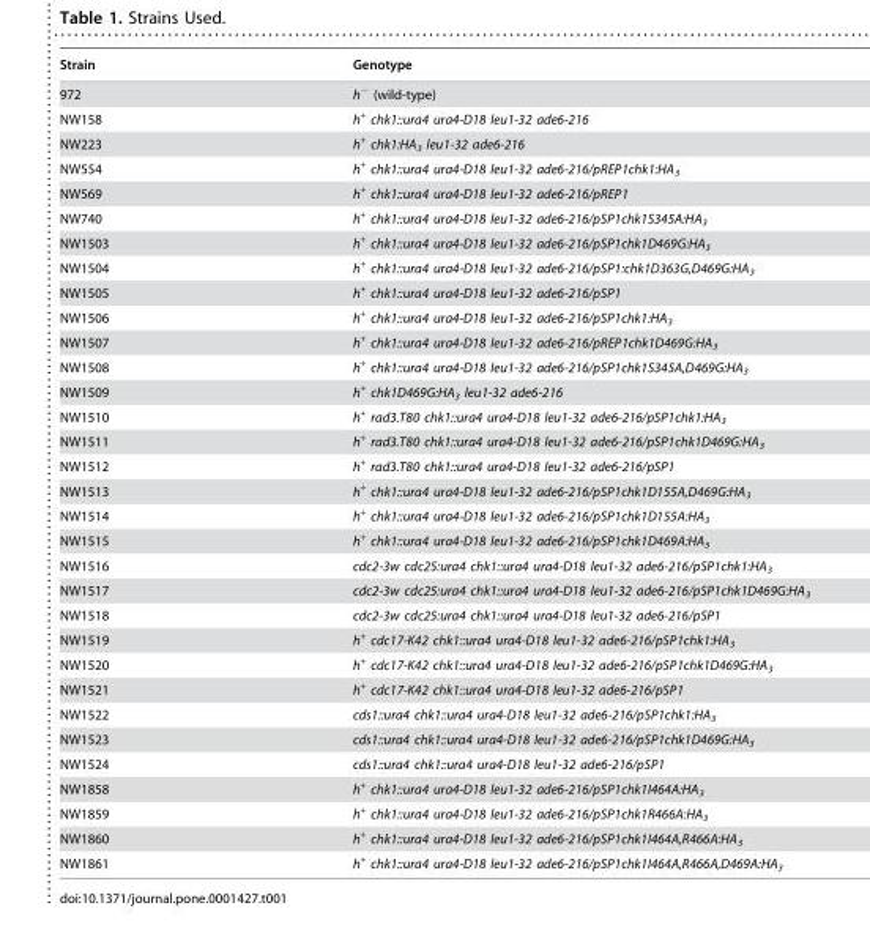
<table><thead><tr><td>Strain</td><td>Genotype</td></tr></thead><tbody><tr><td>972</td><td>h<sup>−</sup> (wild-type)</td></tr><tr><td>NW158</td><td>h<sup>+</sup> chk1::ura4 ura4-D18 leu1-32 ade6-216</td></tr><tr><td>NW223</td><td>h<sup>+</sup> chk1:HA<sub>3</sub> leu1-32 ade6-216</td></tr><tr><td>NW554</td><td>h<sup>+</sup> chk1::ura4 ura4-D18 leu1-32 ade6-216/pREP1chk1:HA<sub>3</sub></td></tr><tr><td>NW569</td><td>h<sup>+</sup> chk1::ura4 ura4-D18 leu1-32 ade6-216/pREP1</td></tr><tr><td>NW740</td><td>h<sup>+</sup> chk1::ura4 ura4-D18 leu1-32 ade6-216/pSP1chk1S345A:HA<sub>3</sub></td></tr><tr><td>NW1503</td><td>h<sup>+</sup> chk1::ura4 ura4-D18 leu1-32 ade6-216/pSP1chk1D469G:HA<sub>3</sub></td></tr><tr><td>NW1504</td><td>h<sup>+</sup> chk1::ura4 ura4-D18 leu1-32 ade6-216/pSP1:chk1D363G,D469G:HA<sub>3</sub></td></tr><tr><td>NW1505</td><td>h<sup>+</sup> chk1::ura4 ura4-D18 leu1-32 ade6-216/pSP1</td></tr><tr><td>NW1506</td><td>h<sup>+</sup> chk1::ura4 ura4-D18 leu1-32 ade6-216/pSP1chk1:HA<sub>3</sub></td></tr><tr><td>NW1507</td><td>h<sup>+</sup> chk1::ura4 ura4-D18 leu1-32 ade6-216/pREP1chk1D469G:HA<sub>3</sub></td></tr><tr><td>NW1508</td><td>h<sup>+</sup> chk1::ura4 ura4-D18 leu1-32 ade6-216/pSP1chk1S345A,D469G:HA<sub>3</sub></td></tr><tr><td>NW1509</td><td>h<sup>+</sup> chk1D469G:HA<sub>3</sub> leu1-32 ade6-216</td></tr><tr><td>NW1510</td><td>h<sup>+</sup> rad3.T80 chk1::ura4 ura4-D18 leu1-32 ade6-216/pSP1chk1:HA<sub>3</sub></td></tr><tr><td>NW1511</td><td>h<sup>+</sup> rad3.T80 chk1::ura4 ura4-D18 leu1-32 ade6-216/pSP1chk1D469G:HA<sub>3</sub></td></tr><tr><td>NW1512</td><td>h<sup>+</sup> rad3.T80 chk1::ura4 ura4-D18 leu1-32 ade6-216/pSP1</td></tr><tr><td>NW1513</td><td>h<sup>+</sup> chk1::ura4 ura4-D18 leu1-32 ade6-216/pSP1chk1D155A,D469G:HA<sub>3</sub></td></tr><tr><td>NW1514</td><td>h<sup>+</sup> chk1::ura4 ura4-D18 leu1-32 ade6-216/pSP1chk1D155A:HA<sub>3</sub></td></tr><tr><td>NW1515</td><td>h<sup>+</sup> chk1::ura4 ura4-D18 leu1-32 ade6-216/pSP1chk1D469A:HA<sub>3</sub></td></tr><tr><td>NW1516</td><td>cdc2-3w cdc25:ura4 chk1::ura4 ura4-D18 leu1-32 ade6-216/pSP1chk1:HA<sub>3</sub></td></tr><tr><td>NW1517</td><td>cdc2-3w cdc25:ura4 chk1::ura4 ura4-D18 leu1-32 ade6-216/pSP1chk1D469G:HA<sub>3</sub></td></tr><tr><td>NW1518</td><td>cdc2-3w cdc25:ura4 chk1::ura4 ura4-D18 leu1-32 ade6-216/pSP1</td></tr><tr><td>NW1519</td><td>h<sup>+</sup> cdc17-K42 chk1::ura4 ura4-D18 leu1-32 ade6-216/pSP1chk1:HA<sub>3</sub></td></tr><tr><td>NW1520</td><td>h<sup>+</sup> cdc17-K42 chk1::ura4 ura4-D18 leu1-32 ade6-216/pSP1chk1D469G:HA<sub>3</sub></td></tr><tr><td>NW1521</td><td>h<sup>+</sup> cdc17-K42 chk1::ura4 ura4-D18 leu1-32 ade6-216/pSP1</td></tr><tr><td>NW1522</td><td>cds1::ura4 chk1::ura4 ura4-D18 leu1-32 ade6-216/pSP1chk1:HA<sub>3</sub></td></tr><tr><td>NW1523</td><td>cds1::ura4 chk1::ura4 ura4-D18 leu1-32 ade6-216/pSP1chk1D469G:HA<sub>3</sub></td></tr><tr><td>NW1524</td><td>cds1::ura4 chk1::ura4 ura4-D18 leu1-32 ade6-216/pSP1</td></tr><tr><td>NW1858</td><td>h<sup>+</sup> chk1::ura4 ura4-D18 leu1-32 ade6-216/pSP1chk1I464A:HA<sub>3</sub></td></tr><tr><td>NW1859</td><td>h<sup>+</sup> chk1::ura4 ura4-D18 leu1-32 ade6-216/pSP1chk1R466A:HA<sub>3</sub></td></tr><tr><td>NW1860</td><td>h<sup>+</sup> chk1::ura4 ura4-D18 leu1-32 ade6-216/pSP1chk1I464A,R466A:HA<sub>3</sub></td></tr><tr><td>NW1861</td><td>h<sup>+</sup> chk1::ura4 ura4-D18 leu1-32 ade6-216/pSP1chk1I464A,R466A,D469A:HA<sub>3</sub></td></tr></tbody></table>